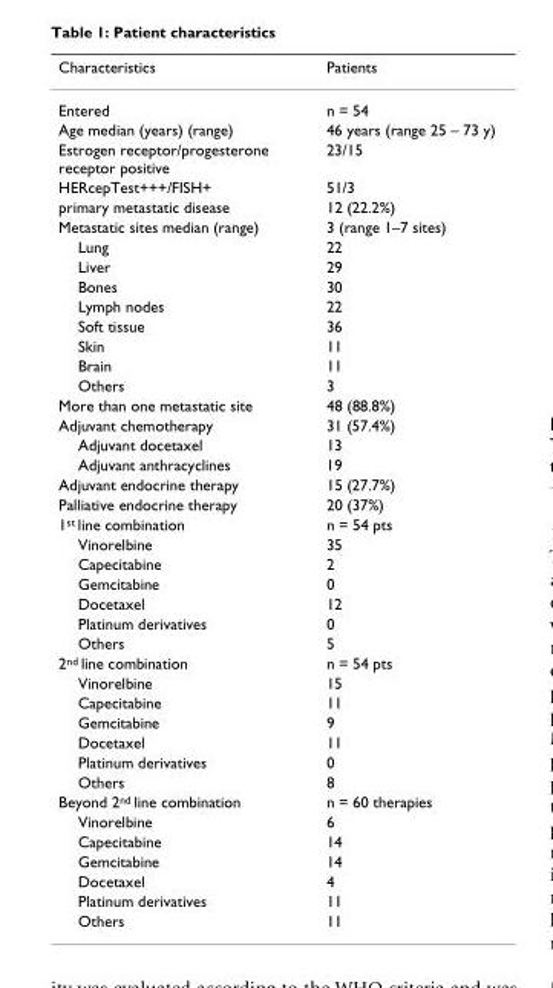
<table><thead><tr><td>Characteristics</td><td>Patients</td></tr></thead><tbody><tr><td>Entered</td><td>n = 54</td></tr><tr><td>Age median (years) (range)</td><td>46 years (range 25 – 73 y)</td></tr><tr><td>Estrogen receptor/progesterone receptor positive</td><td>23/15</td></tr><tr><td>HERcepTest+++/FISH+</td><td>51/3</td></tr><tr><td>primary metastatic disease</td><td>12 (22.2%)</td></tr><tr><td>Metastatic sites median (range)</td><td>3 (range 1–7 sites)</td></tr><tr><td>Lung</td><td>22</td></tr><tr><td>Liver</td><td>29</td></tr><tr><td>Bones</td><td>30</td></tr><tr><td>Lymph nodes</td><td>22</td></tr><tr><td>Soft tissue</td><td>36</td></tr><tr><td>Skin</td><td>11</td></tr><tr><td>Brain</td><td>11</td></tr><tr><td>Others</td><td>3</td></tr><tr><td>More than one metastatic site</td><td>48 (88.8%)</td></tr><tr><td>Adjuvant chemotherapy</td><td>31 (57.4%)</td></tr><tr><td>Adjuvant docetaxel</td><td>13</td></tr><tr><td>Adjuvant anthracyclines</td><td>19</td></tr><tr><td>Adjuvant endocrine therapy</td><td>15 (27.7%)</td></tr><tr><td>Palliative endocrine therapy</td><td>20 (37%)</td></tr><tr><td>1st line combination</td><td>n = 54 pts</td></tr><tr><td>Vinorelbine</td><td>35</td></tr><tr><td>Capecitabine</td><td>2</td></tr><tr><td>Gemcitabine</td><td>0</td></tr><tr><td>Docetaxel</td><td>12</td></tr><tr><td>Platinum derivatives</td><td>0</td></tr><tr><td>Others</td><td>5</td></tr><tr><td>2nd line combination</td><td>n = 54 pts</td></tr><tr><td>Vinorelbine</td><td>15</td></tr><tr><td>Capecitabine</td><td>11</td></tr><tr><td>Gemcitabine</td><td>9</td></tr><tr><td>Docetaxel</td><td>11</td></tr><tr><td>Platinum derivatives</td><td>0</td></tr><tr><td>Others</td><td>8</td></tr><tr><td>Beyond 2nd line combination</td><td>n = 60 therapies</td></tr><tr><td>Vinorelbine</td><td>6</td></tr><tr><td>Capecitabine</td><td>14</td></tr><tr><td>Gemcitabine</td><td>14</td></tr><tr><td>Docetaxel</td><td>4</td></tr><tr><td>Platinum derivatives</td><td>11</td></tr><tr><td>Others</td><td>11</td></tr></tbody></table>